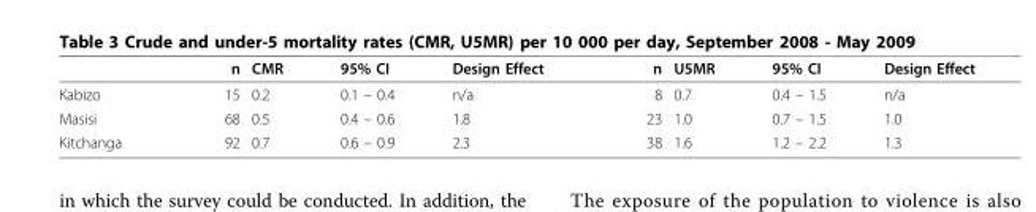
<table><thead><tr><td></td><td>n</td><td>CMR</td><td>95% CI</td><td>Design Effect</td><td>n</td><td>U5MR</td><td>95% CI</td><td>Design Effect</td></tr></thead><tbody><tr><td>Kabizo</td><td>15</td><td>0.2</td><td>0.1 – 0.4</td><td>n/a</td><td>8</td><td>0.7</td><td>0.4 – 1.5</td><td>n/a</td></tr><tr><td>Masisi</td><td>68</td><td>0.5</td><td>0.4 – 0.6</td><td>1.8</td><td>23</td><td>1.0</td><td>0.7 – 1.5</td><td>1.0</td></tr><tr><td>Kitchanga</td><td>92</td><td>0.7</td><td>0.6 – 0.9</td><td>2.3</td><td>38</td><td>1.6</td><td>1.2 – 2.2</td><td>1.3</td></tr></tbody></table>